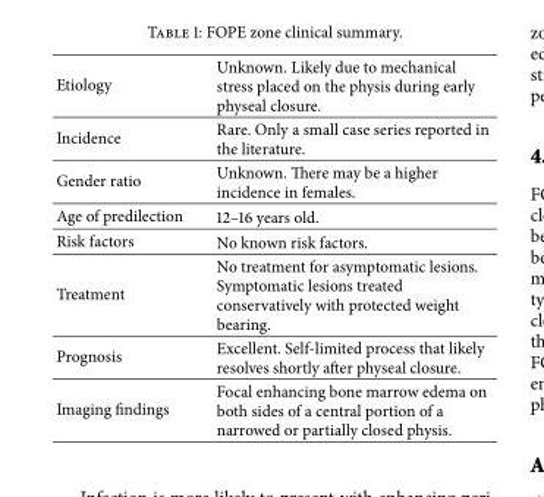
<table><tbody><tr><td>Etiology</td><td>Unknown. Likely due to mechanical stress placed on the physis during early physeal closure.</td></tr><tr><td>Incidence</td><td>Rare. Only a small case series reported in the literature.</td></tr><tr><td>Gender ratio</td><td>Unknown. There may be a higher incidence in females.</td></tr><tr><td>Age of predilection</td><td>12–16 years old.</td></tr><tr><td>Risk factors</td><td>No known risk factors.</td></tr><tr><td>Treatment</td><td>No treatment for asymptomatic lesions. Symptomatic lesions treated conservatively with protected weight bearing.</td></tr><tr><td>Prognosis</td><td>Excellent. Self-limited process that likely resolves shortly after physeal closure.</td></tr><tr><td>Imaging findings</td><td>Focal enhancing bone marrow edema on both sides of a central portion of a narrowed or partially closed physis.</td></tr></tbody></table>